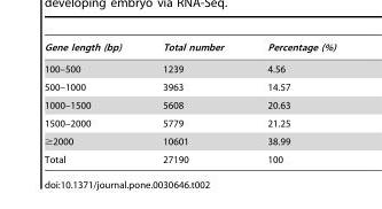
<table><thead><tr><td>Gene length (bp)</td><td>Total number</td><td>Percentage (%)</td></tr></thead><tbody><tr><td>100–500</td><td>1239</td><td>4.56</td></tr><tr><td>500–1000</td><td>3963</td><td>14.57</td></tr><tr><td>1000–1500</td><td>5608</td><td>20.63</td></tr><tr><td>1500–2000</td><td>5779</td><td>21.25</td></tr><tr><td>≥2000</td><td>10601</td><td>38.99</td></tr><tr><td>Total</td><td>27190</td><td>100</td></tr></tbody></table>